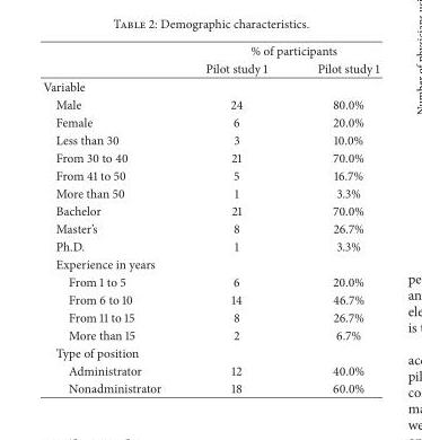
<table><thead><tr><td rowspan="2"></td><td colspan="2">% of participants</td></tr><tr><td>Pilot study 1</td><td>Pilot study 1</td></tr></thead><tbody><tr><td colspan="3">Variable</td></tr><tr><td>Male</td><td>24</td><td>80.0%</td></tr><tr><td>Female</td><td>6</td><td>20.0%</td></tr><tr><td>Less than 30</td><td>3</td><td>10.0%</td></tr><tr><td>From 30 to 40</td><td>21</td><td>70.0%</td></tr><tr><td>From 41 to 50</td><td>5</td><td>16.7%</td></tr><tr><td>More than 50</td><td>1</td><td>3.3%</td></tr><tr><td>Bachelor</td><td>21</td><td>70.0%</td></tr><tr><td>Master’s</td><td>8</td><td>26.7%</td></tr><tr><td>Ph.D.</td><td>1</td><td>3.3%</td></tr><tr><td colspan="3">Experience in years</td></tr><tr><td>From 1 to 5</td><td>6</td><td>20.0%</td></tr><tr><td>From 6 to 10</td><td>14</td><td>46.7%</td></tr><tr><td>From 11 to 15</td><td>8</td><td>26.7%</td></tr><tr><td>More than 15</td><td>2</td><td>6.7%</td></tr><tr><td colspan="3">Type of position</td></tr><tr><td>Administrator</td><td>12</td><td>40.0%</td></tr><tr><td>Nonadministrator</td><td>18</td><td>60.0%</td></tr></tbody></table>